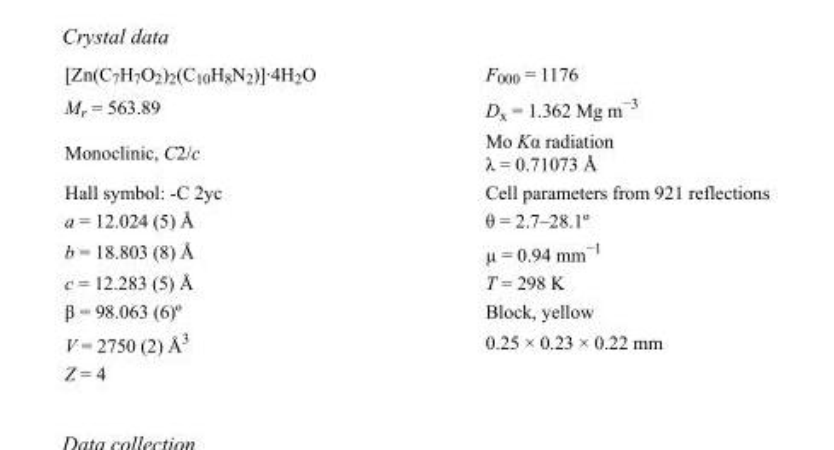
<table><tbody><tr><td>[Zn(C<sub>7</sub>H<sub>7</sub>O<sub>2</sub>)<sub>2</sub>(C<sub>10</sub>H<sub>8</sub>N<sub>2</sub>)]·4H<sub>2</sub>O</td><td>F000 = 1176</td></tr><tr><td>M<sub>r</sub> = 563.89</td><td>D<sub>x</sub> = 1.362 Mg m<sup>−3</sup></td></tr><tr><td>Monoclinic, C2/c</td><td>Mo Kα radiation λ = 0.71073 Å</td></tr><tr><td>Hall symbol: -C 2yc</td><td>Cell parameters from 921 reflections</td></tr><tr><td>a = 12.024 (5) Å</td><td>θ = 2.7–28.1º</td></tr><tr><td>b = 18.803 (8) Å</td><td>µ = 0.94 mm<sup>−1</sup></td></tr><tr><td>c = 12.283 (5) Å</td><td>T = 298 K</td></tr><tr><td>β = 98.063 (6)º</td><td>Block, yellow</td></tr><tr><td>V = 2750 (2) Å<sup>3</sup></td><td>0.25 × 0.23 × 0.22 mm</td></tr><tr><td>Z = 4</td><td></td></tr></tbody></table>